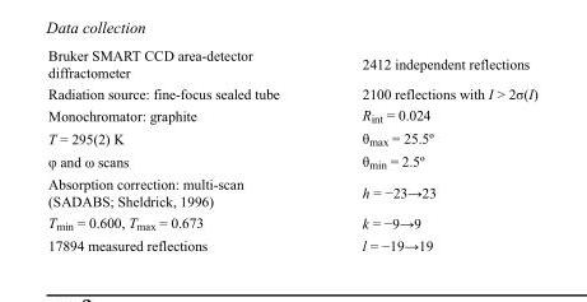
<table><tbody><tr><td>Bruker SMART CCD area-detector diffractometer</td><td>2412 independent reflections</td></tr><tr><td>Radiation source: fine-focus sealed tube</td><td>2100 reflections with I &gt; 2σ(I)</td></tr><tr><td>Monochromator: graphite</td><td>R<sub>int</sub> = 0.024</td></tr><tr><td>T = 295(2) K</td><td>θ<sub>max</sub> = 25.5º</td></tr><tr><td>φ and ω scans</td><td>θ<sub>min</sub> = 2.5º</td></tr><tr><td>Absorption correction: multi-scan (SADABS; Sheldrick, 1996)</td><td>h = −23→23</td></tr><tr><td>T<sub>min</sub> = 0.600, T<sub>max</sub> = 0.673</td><td>k = −9→9</td></tr><tr><td>17894 measured reflections</td><td>l = −19→19</td></tr></tbody></table>